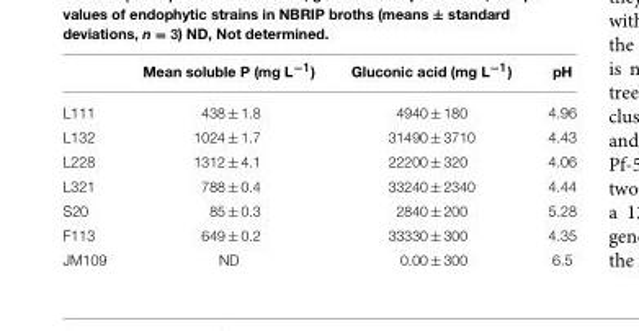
<table><thead><tr><td></td><td>Mean soluble P (mg L−1)</td><td>Gluconic acid (mg L−1)</td><td>pH</td></tr></thead><tbody><tr><td>L111</td><td>438 ± 1.8</td><td>4940 ± 180</td><td>4.96</td></tr><tr><td>L132</td><td>1024 ± 1.7</td><td>31490 ± 3710</td><td>4.43</td></tr><tr><td>L228</td><td>1312 ± 4.1</td><td>22200 ± 320</td><td>4.06</td></tr><tr><td>L321</td><td>788 ± 0.4</td><td>33240 ± 2340</td><td>4.44</td></tr><tr><td>S20</td><td>85 ± 0.3</td><td>2840 ± 200</td><td>5.28</td></tr><tr><td>F113</td><td>649 ± 0.2</td><td>33330 ± 300</td><td>4.35</td></tr><tr><td>JM109</td><td>ND</td><td>0.00 ± 300</td><td>6.5</td></tr></tbody></table>